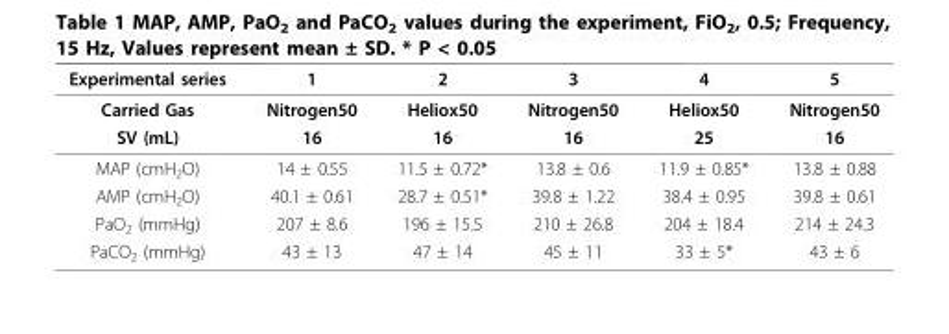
<table><thead><tr><td>Experimental series</td><td>1</td><td>2</td><td>3</td><td>4</td><td>5</td></tr></thead><tbody><tr><td>Carried Gas</td><td>Nitrogen50</td><td>Heliox50</td><td>Nitrogen50</td><td>Heliox50</td><td>Nitrogen50</td></tr><tr><td>SV (mL)</td><td>16</td><td>16</td><td>16</td><td>25</td><td>16</td></tr><tr><td>MAP (cmH<sub>2</sub>O)</td><td>14 ± 0.55</td><td>11.5 ± 0.72*</td><td>13.8 ± 0.6</td><td>11.9 ± 0.85*</td><td>13.8 ± 0.88</td></tr><tr><td>AMP (cmH<sub>2</sub>O)</td><td>40.1 ± 0.61</td><td>28.7 ± 0.51*</td><td>39.8 ± 1.22</td><td>38.4 ± 0.95</td><td>39.8 ± 0.61</td></tr><tr><td>PaO<sub>2</sub> (mmHg)</td><td>207 ± 8.6</td><td>196 ± 15.5</td><td>210 ± 26.8</td><td>204 ± 18.4</td><td>214 ± 24.3</td></tr><tr><td>PaCO<sub>2</sub> (mmHg)</td><td>43 ± 13</td><td>47 ± 14</td><td>45 ± 11</td><td>33 ± 5*</td><td>43 ± 6</td></tr></tbody></table>